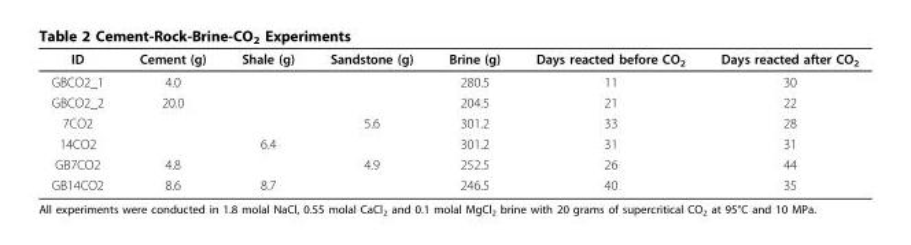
<table><thead><tr><td>ID</td><td>Cement (g)</td><td>Shale (g)</td><td>Sandstone (g)</td><td>Brine (g)</td><td>Days reacted before CO<sub>2</sub></td><td>Days reacted after CO<sub>2</sub></td></tr></thead><tbody><tr><td>GBCO2_1</td><td>4.0</td><td></td><td></td><td>280.5</td><td>11</td><td>30</td></tr><tr><td>GBCO2_2</td><td>20.0</td><td></td><td></td><td>204.5</td><td>21</td><td>22</td></tr><tr><td>7CO2</td><td></td><td></td><td>5.6</td><td>301.2</td><td>33</td><td>28</td></tr><tr><td>14CO2</td><td></td><td>6.4</td><td></td><td>301.2</td><td>31</td><td>31</td></tr><tr><td>GB7CO2</td><td>4.8</td><td></td><td>4.9</td><td>252.5</td><td>26</td><td>44</td></tr><tr><td>GB14CO2</td><td>8.6</td><td>8.7</td><td></td><td>246.5</td><td>40</td><td>35</td></tr></tbody></table>